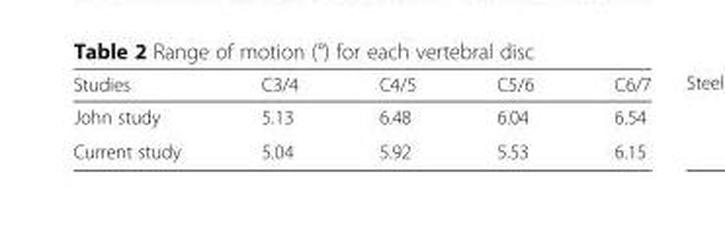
<table><thead><tr><td>Studies</td><td>C3/4</td><td>C4/5</td><td>C5/6</td><td>C6/7</td></tr></thead><tbody><tr><td>John study</td><td>5.13</td><td>6.48</td><td>6.04</td><td>6.54</td></tr><tr><td>Current study</td><td>5.04</td><td>5.92</td><td>5.53</td><td>6.15</td></tr></tbody></table>